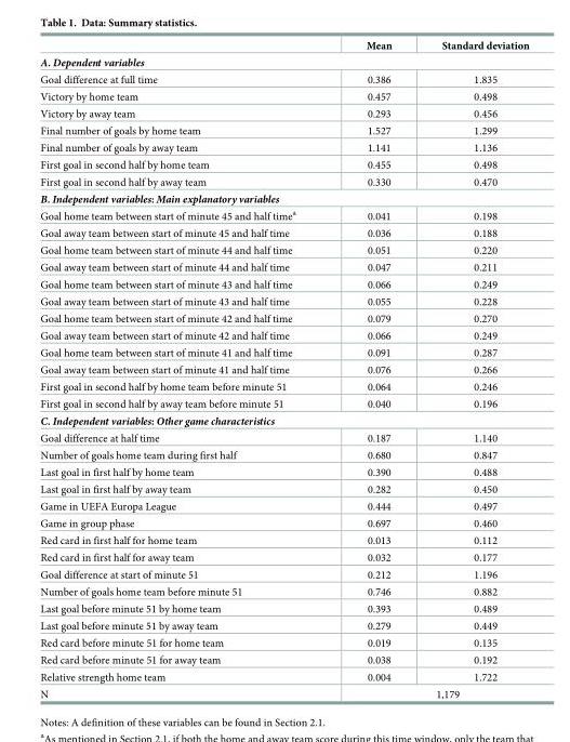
<table><thead><tr><td></td><td>Mean</td><td>Standard deviation</td></tr></thead><tbody><tr><td colspan="3">A. Dependent variables</td></tr><tr><td>Goal difference at full time</td><td>0.386</td><td>1.835</td></tr><tr><td>Victory by home team</td><td>0.457</td><td>0.498</td></tr><tr><td>Victory by away team</td><td>0.293</td><td>0.456</td></tr><tr><td>Final number of goals by home team</td><td>1.527</td><td>1.299</td></tr><tr><td>Final number of goals by away team</td><td>1.141</td><td>1.136</td></tr><tr><td>First goal in second half by home team</td><td>0.455</td><td>0.498</td></tr><tr><td>First goal in second half by away team</td><td>0.330</td><td>0.470</td></tr><tr><td colspan="3">B. Independent variables: Main explanatory variables</td></tr><tr><td>Goal home team between start of minute 45 and half time<sup>a</sup></td><td>0.041</td><td>0.198</td></tr><tr><td>Goal away team between start of minute 45 and half time</td><td>0.036</td><td>0.188</td></tr><tr><td>Goal home team between start of minute 44 and half time</td><td>0.051</td><td>0.220</td></tr><tr><td>Goal away team between start of minute 44 and half time</td><td>0.047</td><td>0.211</td></tr><tr><td>Goal home team between start of minute 43 and half time</td><td>0.066</td><td>0.249</td></tr><tr><td>Goal away team between start of minute 43 and half time</td><td>0.055</td><td>0.228</td></tr><tr><td>Goal home team between start of minute 42 and half time</td><td>0.079</td><td>0.270</td></tr><tr><td>Goal away team between start of minute 42 and half time</td><td>0.066</td><td>0.249</td></tr><tr><td>Goal home team between start of minute 41 and half time</td><td>0.091</td><td>0.287</td></tr><tr><td>Goal away team between start of minute 41 and half time</td><td>0.076</td><td>0.266</td></tr><tr><td>First goal in second half by home team before minute 51</td><td>0.064</td><td>0.246</td></tr><tr><td>First goal in second half by away team before minute 51</td><td>0.040</td><td>0.196</td></tr><tr><td colspan="3">C. Independent variables: Other game characteristics</td></tr><tr><td>Goal difference at half time</td><td>0.187</td><td>1.140</td></tr><tr><td>Number of goals home team during first half</td><td>0.680</td><td>0.847</td></tr><tr><td>Last goal in first half by home team</td><td>0.390</td><td>0.488</td></tr><tr><td>Last goal in first half by away team</td><td>0.282</td><td>0.450</td></tr><tr><td>Game in UEFA Europa League</td><td>0.444</td><td>0.497</td></tr><tr><td>Game in group phase</td><td>0.697</td><td>0.460</td></tr><tr><td>Red card in first half for home team</td><td>0.013</td><td>0.112</td></tr><tr><td>Red card in first half for away team</td><td>0.032</td><td>0.177</td></tr><tr><td>Goal difference at start of minute 51</td><td>0.212</td><td>1.196</td></tr><tr><td>Number of goals home team before minute 51</td><td>0.746</td><td>0.882</td></tr><tr><td>Last goal before minute 51 by home team</td><td>0.393</td><td>0.489</td></tr><tr><td>Last goal before minute 51 by away team</td><td>0.279</td><td>0.449</td></tr><tr><td>Red card before minute 51 for home team</td><td>0.019</td><td>0.135</td></tr><tr><td>Red card before minute 51 for away team</td><td>0.038</td><td>0.192</td></tr><tr><td>Relative strength home team</td><td>0.004</td><td>1.722</td></tr><tr><td>N</td><td colspan="2">1,179</td></tr></tbody></table>